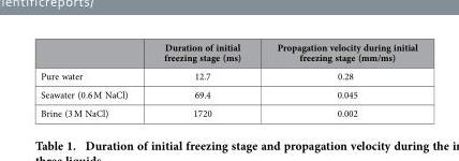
<table><thead><tr><td></td><td>Duration of initial freezing stage (ms)</td><td>Propagation velocity during initial freezing stage (mm/ms)</td></tr></thead><tbody><tr><td>Pure water</td><td>12.7</td><td>0.28</td></tr><tr><td>Seawater (0.6 M NaCl)</td><td>69.4</td><td>0.045</td></tr><tr><td>Brine (3 M NaCl)</td><td>1720</td><td>0.002</td></tr></tbody></table>